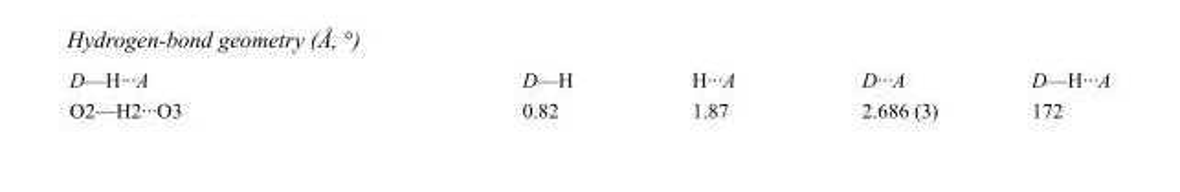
<table><tbody><tr><td>D—H···A</td><td>D—H</td><td>H···A</td><td>D···A</td><td>D—H···A</td></tr><tr><td>O2—H2···O3</td><td>0.82</td><td>1.87</td><td>2.686 (3)</td><td>172</td></tr></tbody></table>